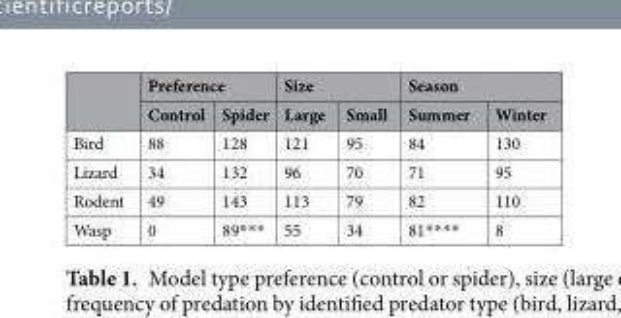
<table><thead><tr><td rowspan="2"></td><td colspan="2">Preference</td><td colspan="2">Size</td><td colspan="2">Season</td></tr><tr><td>Control</td><td>Spider</td><td>Large</td><td>Small</td><td>Summer</td><td>Winter</td></tr></thead><tbody><tr><td>Bird</td><td>88</td><td>128</td><td>121</td><td>95</td><td>84</td><td>130</td></tr><tr><td>Lizard</td><td>34</td><td>132</td><td>96</td><td>70</td><td>71</td><td>95</td></tr><tr><td>Rodent</td><td>49</td><td>143</td><td>113</td><td>79</td><td>82</td><td>110</td></tr><tr><td>Wasp</td><td>0</td><td>89***</td><td>55</td><td>34</td><td>81****</td><td>8</td></tr></tbody></table>